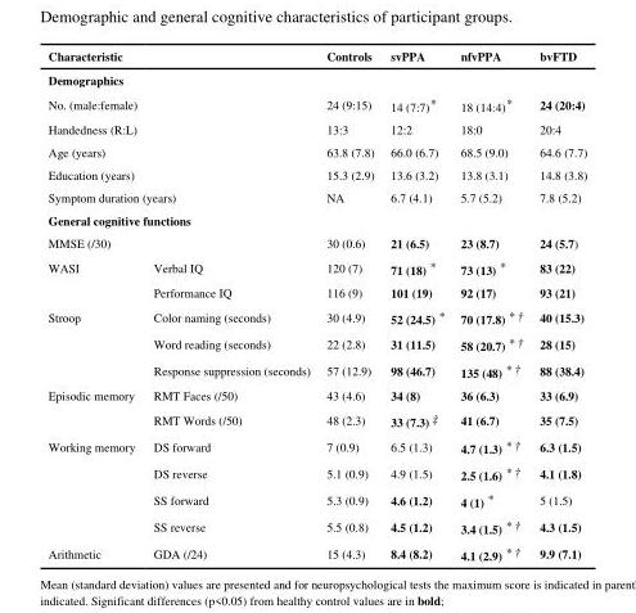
<table><thead><tr><td>Characteristic</td><td></td><td>Controls</td><td>svPPA</td><td>nfvPPA</td><td>bvFTD</td></tr></thead><tbody><tr><td colspan="6">Demographics</td></tr><tr><td>No. (male:female)</td><td></td><td>24 (9:15)</td><td>14 (7:7)*</td><td>18 (14:4)*</td><td>24 (20:4)</td></tr><tr><td>Handedness (R:L)</td><td></td><td>13:3</td><td>12:2</td><td>18:0</td><td>20:4</td></tr><tr><td>Age (years)</td><td></td><td>63.8 (7.8)</td><td>66.0 (6.7)</td><td>68.5 (9.0)</td><td>64.6 (7.7)</td></tr><tr><td>Education (years)</td><td></td><td>15.3 (2.9)</td><td>13.6 (3.2)</td><td>13.8 (3.1)</td><td>14.8 (3.8)</td></tr><tr><td colspan="2">Symptom duration (years)</td><td>NA</td><td>6.7 (4.1)</td><td>5.7 (5.2)</td><td>7.8 (5.2)</td></tr><tr><td colspan="6">General cognitive functions</td></tr><tr><td>MMSE (/30)</td><td></td><td>30 (0.6)</td><td>21 (6.5)</td><td>23 (8.7)</td><td>24 (5.7)</td></tr><tr><td rowspan="2">WASI</td><td>Verbal IQ</td><td>120 (7)</td><td>71 (18) *</td><td>73 (13) *</td><td>83 (22)</td></tr><tr><td>Performance IQ</td><td>116 (9)</td><td>101 (19)</td><td>92 (17)</td><td>93 (21)</td></tr><tr><td rowspan="3">Stroop</td><td>Color naming (seconds)</td><td>30 (4.9)</td><td>52 (24.5) *</td><td>70 (17.8) * †</td><td>40 (15.3)</td></tr><tr><td>Word reading (seconds)</td><td>22 (2.8)</td><td>31 (11.5)</td><td>58 (20.7) * †</td><td>28 (15)</td></tr><tr><td>Response suppression (seconds)</td><td>57 (12.9)</td><td>98 (46.7)</td><td>135 (48) * †</td><td>88 (38.4)</td></tr><tr><td rowspan="2">Episodic memory</td><td>RMT Faces (/50)</td><td>43 (4.6)</td><td>34 (8)</td><td>36 (6.3)</td><td>33 (6.9)</td></tr><tr><td>RMT Words (/50)</td><td>48 (2.3)</td><td>33 (7.3) ‡</td><td>41 (6.7)</td><td>35 (7.5)</td></tr><tr><td rowspan="4">Working memory</td><td>DS forward</td><td>7 (0.9)</td><td>6.5 (1.3)</td><td>4.7 (1.3) * †</td><td>6.3 (1.5)</td></tr><tr><td>DS reverse</td><td>5.1 (0.9)</td><td>4.9 (1.5)</td><td>2.5 (1.6) * †</td><td>4.1 (1.8)</td></tr><tr><td>SS forward</td><td>5.3 (0.9)</td><td>4.6 (1.2)</td><td>4 (1) *</td><td>5 (1.5)</td></tr><tr><td>SS reverse</td><td>5.5 (0.8)</td><td>4.5 (1.2)</td><td>3.4 (1.5) * †</td><td>4.3 (1.5)</td></tr><tr><td>Arithmetic</td><td>GDA (/24)</td><td>15 (4.3)</td><td>8.4 (8.2)</td><td>4.1 (2.9) * †</td><td>9.9 (7.1)</td></tr></tbody></table>